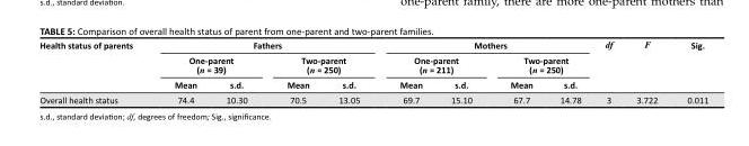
<table><thead><tr><td rowspan="3">Health status of parents</td><td colspan="4">Fathers</td><td colspan="4">Mothers</td><td rowspan="3">df</td><td rowspan="3">F</td><td rowspan="3">Sig.</td></tr><tr><td colspan="2">One-parent (n = 39)</td><td colspan="2">Two-parent (n = 250)</td><td colspan="2">One-parent (n = 211)</td><td colspan="2">Two-parent (n = 250)</td></tr><tr><td>Mean</td><td>s.d.</td><td>Mean</td><td>s.d.</td><td>Mean</td><td>s.d.</td><td>Mean</td><td>s.d.</td></tr></thead><tbody><tr><td>Overall health status</td><td>74.4</td><td>10.30</td><td>70.5</td><td>13.05</td><td>69.7</td><td>15.10</td><td>67.7</td><td>14.78</td><td>3</td><td>3.722</td><td>0.011</td></tr></tbody></table>